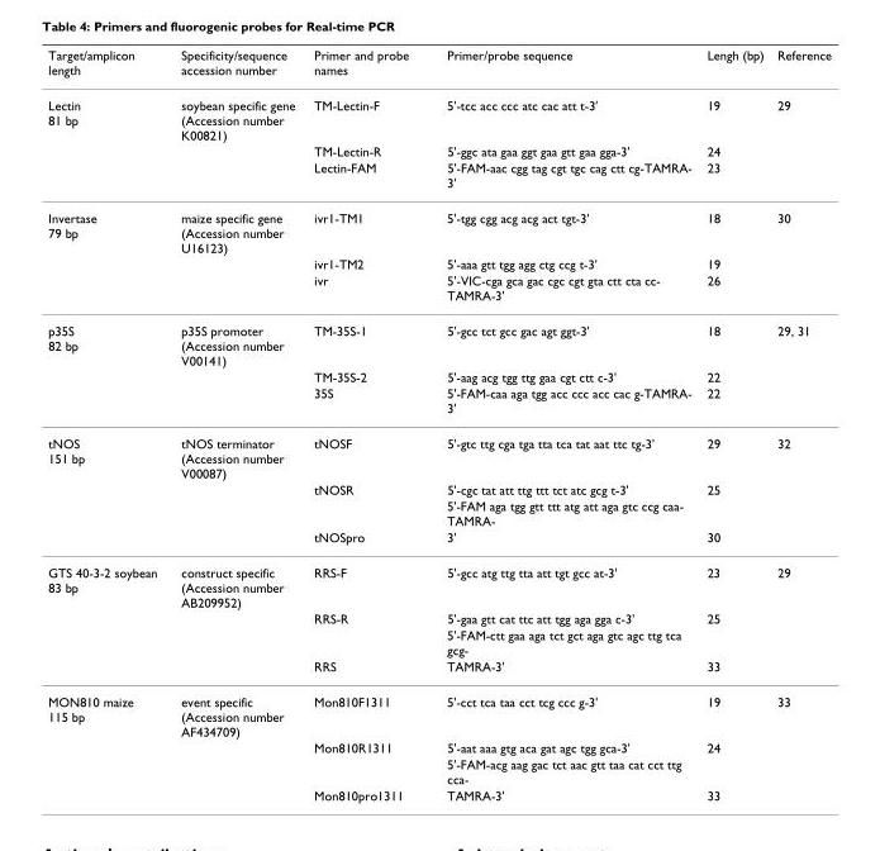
<table><thead><tr><td>Target/amplicon length</td><td>Specificity/sequence accession number</td><td>Primer and probe names</td><td>Primer/probe sequence</td><td>Lengh (bp)</td><td>Reference</td></tr></thead><tbody><tr><td rowspan="3">Lectin 81 bp</td><td>soybean specific gene (Accession number K00821)</td><td>TM-Lectin-F</td><td>5&#x27;-tcc acc ccc atc cac att t-3&#x27;</td><td>19</td><td>29</td></tr><tr><td></td><td>TM-Lectin-R</td><td>5&#x27;-ggc ata gaa ggt gaa gtt gaa gga-3&#x27;</td><td>24</td><td></td></tr><tr><td></td><td>Lectin-FAM</td><td>5&#x27;-FAM-aac cgg tag cgt tgc cag ctt cg-TAMRA- 3&#x27;</td><td>23</td><td></td></tr><tr><td rowspan="3">Invertase 79 bp</td><td>maize specific gene (Accession number U16123)</td><td>ivr1-TM1</td><td>5&#x27;-tgg cgg acg acg act tgt-3&#x27;</td><td>18</td><td>30</td></tr><tr><td></td><td>ivr1-TM2</td><td>5&#x27;-aaa gtt tgg agg ctg ccg t-3&#x27;</td><td>19</td><td></td></tr><tr><td></td><td>ivr</td><td>5&#x27;-VIC-cga gca gac cgc cgt gta ctt cta cc- TAMRA-3&#x27;</td><td>26</td><td></td></tr><tr><td rowspan="3">p35S 82 bp</td><td>p35S promoter (Accession number V00141)</td><td>TM-35S-1</td><td>5&#x27;-gcc tct gcc gac agt ggt-3&#x27;</td><td>18</td><td>29, 31</td></tr><tr><td></td><td>TM-35S-2</td><td>5&#x27;-aag acg tgg ttg gaa cgt ctt c-3&#x27;</td><td>22</td><td></td></tr><tr><td></td><td>35S</td><td>5&#x27;-FAM-caa aga tgg acc ccc acc cac g-TAMRA- 3&#x27;</td><td>22</td><td></td></tr><tr><td rowspan="4">tNOS 151 bp</td><td>tNOS terminator (Accession number V00087)</td><td>tNOSF</td><td>5&#x27;-gtc ttg cga tga tta tca tat aat ttc tg-3&#x27;</td><td>29</td><td>32</td></tr><tr><td></td><td>tNOSR</td><td>5&#x27;-cgc tat att ttg ttt tct atc gcg t-3&#x27;</td><td>25</td><td></td></tr><tr><td></td><td></td><td>5&#x27;-FAM aga tgg gtt ttt atg att aga gtc ccg caa- TAMRA-</td><td></td><td></td></tr><tr><td></td><td>tNOSpro</td><td>3&#x27;</td><td>30</td><td></td></tr><tr><td rowspan="4">GTS 40-3-2 soybean 83 bp</td><td>construct specific (Accession number AB209952)</td><td>RRS-F</td><td>5&#x27;-gcc atg ttg tta att tgt gcc at-3&#x27;</td><td>23</td><td>29</td></tr><tr><td></td><td>RRS-R</td><td>5&#x27;-gaa gtt cat ttc att tgg aga gga c-3&#x27;</td><td>25</td><td></td></tr><tr><td></td><td></td><td>5&#x27;-FAM-ctt gaa aga tct gct aga gtc agc ttg tca gcg-</td><td></td><td></td></tr><tr><td></td><td>RRS</td><td>TAMRA-3&#x27;</td><td>33</td><td></td></tr><tr><td rowspan="4">MON810 maize 115 bp</td><td>event specific (Accession number AF434709)</td><td>Mon810F1311</td><td>5&#x27;-cct tca taa cct tcg ccc g-3&#x27;</td><td>19</td><td>33</td></tr><tr><td></td><td>Mon810R1311</td><td>5&#x27;-aat aaa gtg aca gat agc tgg gca-3&#x27;</td><td>24</td><td></td></tr><tr><td></td><td></td><td>5&#x27;-FAM-acg aag gac tct aac gtt taa cat cct ttg cca-</td><td></td><td></td></tr><tr><td></td><td>Mon810pro1311</td><td>TAMRA-3&#x27;</td><td>33</td><td></td></tr></tbody></table>